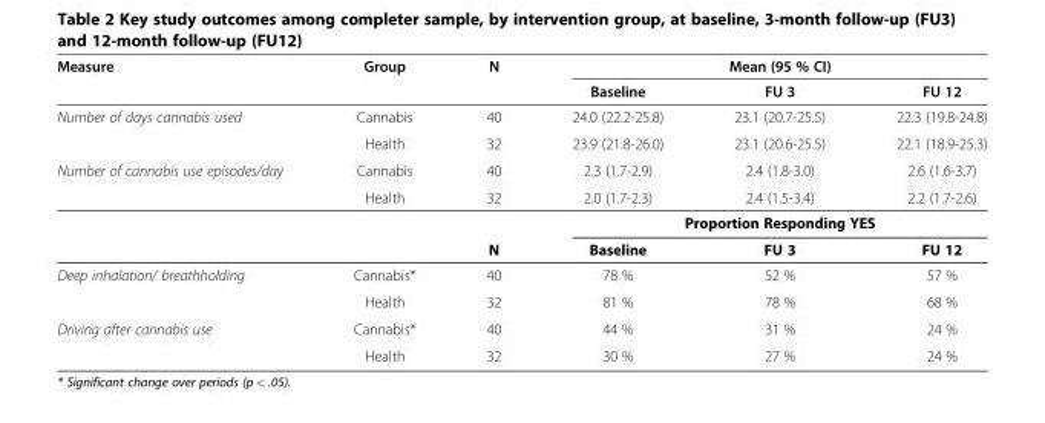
<table><thead><tr><td rowspan="2">Measure</td><td rowspan="2">Group</td><td rowspan="2">N</td><td colspan="3">Mean (95 % CI)</td></tr><tr><td>Baseline</td><td>FU 3</td><td>FU 12</td></tr></thead><tbody><tr><td rowspan="2">Number of days cannabis used</td><td>Cannabis</td><td>40</td><td>24.0 (22.2-25.8)</td><td>23.1 (20.7-25.5)</td><td>22.3 (19.8-24.8)</td></tr><tr><td>Health</td><td>32</td><td>23.9 (21.8-26.0)</td><td>23.1 (20.6-25.5)</td><td>22.1 (18.9-25.3)</td></tr><tr><td rowspan="4">Number of cannabis use episodes/day</td><td>Cannabis</td><td>40</td><td>2.3 (1.7-2.9)</td><td>2.4 (1.8-3.0)</td><td>2.6 (1.6-3.7)</td></tr><tr><td>Health</td><td>32</td><td>2.0 (1.7-2.3)</td><td>2.4 (1.5-3.4)</td><td>2.2 (1.7-2.6)</td></tr><tr><td></td><td></td><td colspan="3">Proportion Responding YES</td></tr><tr><td></td><td>N</td><td>Baseline</td><td>FU 3</td><td>FU 12</td></tr><tr><td rowspan="2">Deep inhalation/ breathholding</td><td>Cannabis*</td><td>40</td><td>78 %</td><td>52 %</td><td>57 %</td></tr><tr><td>Health</td><td>32</td><td>81 %</td><td>78 %</td><td>68 %</td></tr><tr><td rowspan="2">Driving after cannabis use</td><td>Cannabis*</td><td>40</td><td>44 %</td><td>31 %</td><td>24 %</td></tr><tr><td>Health</td><td>32</td><td>30 %</td><td>27 %</td><td>24 %</td></tr></tbody></table>